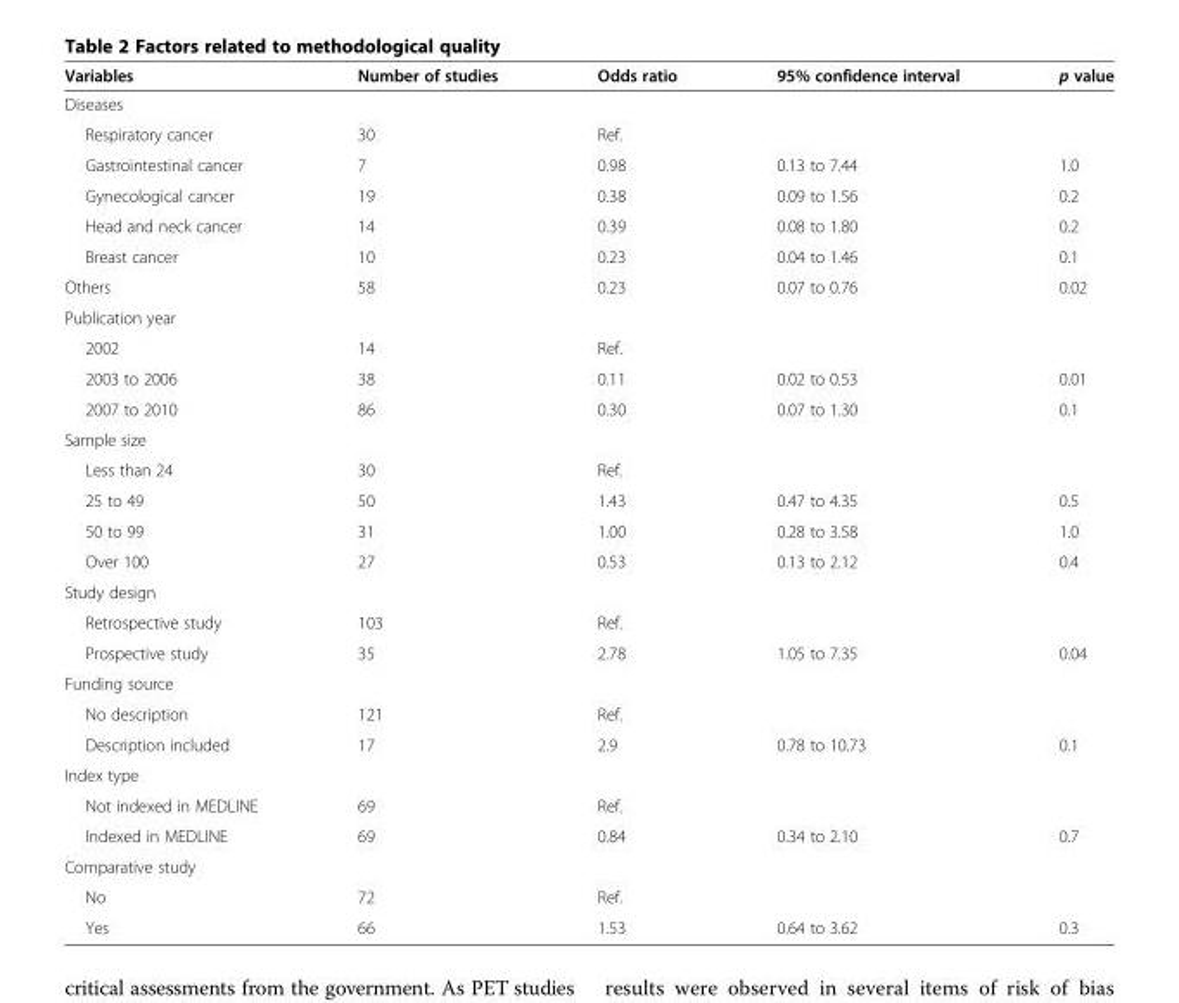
<table><thead><tr><td>Variables</td><td>Number of studies</td><td>Odds ratio</td><td>95% confidence interval</td><td>p value</td></tr></thead><tbody><tr><td colspan="5">Diseases</td></tr><tr><td>Respiratory cancer</td><td>30</td><td>Ref.</td><td></td><td></td></tr><tr><td>Gastrointestinal cancer</td><td>7</td><td>0.98</td><td>0.13 to 7.44</td><td>1.0</td></tr><tr><td>Gynecological cancer</td><td>19</td><td>0.38</td><td>0.09 to 1.56</td><td>0.2</td></tr><tr><td>Head and neck cancer</td><td>14</td><td>0.39</td><td>0.08 to 1.80</td><td>0.2</td></tr><tr><td>Breast cancer</td><td>10</td><td>0.23</td><td>0.04 to 1.46</td><td>0.1</td></tr><tr><td>Others</td><td>58</td><td>0.23</td><td>0.07 to 0.76</td><td>0.02</td></tr><tr><td colspan="5">Publication year</td></tr><tr><td>2002</td><td>14</td><td>Ref.</td><td></td><td></td></tr><tr><td>2003 to 2006</td><td>38</td><td>0.11</td><td>0.02 to 0.53</td><td>0.01</td></tr><tr><td>2007 to 2010</td><td>86</td><td>0.30</td><td>0.07 to 1.30</td><td>0.1</td></tr><tr><td colspan="5">Sample size</td></tr><tr><td>Less than 24</td><td>30</td><td>Ref.</td><td></td><td></td></tr><tr><td>25 to 49</td><td>50</td><td>1.43</td><td>0.47 to 4.35</td><td>0.5</td></tr><tr><td>50 to 99</td><td>31</td><td>1.00</td><td>0.28 to 3.58</td><td>1.0</td></tr><tr><td>Over 100</td><td>27</td><td>0.53</td><td>0.13 to 2.12</td><td>0.4</td></tr><tr><td colspan="5">Study design</td></tr><tr><td>Retrospective study</td><td>103</td><td>Ref.</td><td></td><td></td></tr><tr><td>Prospective study</td><td>35</td><td>2.78</td><td>1.05 to 7.35</td><td>0.04</td></tr><tr><td colspan="5">Funding source</td></tr><tr><td>No description</td><td>121</td><td>Ref.</td><td></td><td></td></tr><tr><td>Description included</td><td>17</td><td>2.9</td><td>0.78 to 10.73</td><td>0.1</td></tr><tr><td colspan="5">Index type</td></tr><tr><td>Not indexed in MEDLINE</td><td>69</td><td>Ref.</td><td></td><td></td></tr><tr><td>Indexed in MEDLINE</td><td>69</td><td>0.84</td><td>0.34 to 2.10</td><td>0.7</td></tr><tr><td colspan="5">Comparative study</td></tr><tr><td>No</td><td>72</td><td>Ref.</td><td></td><td></td></tr><tr><td>Yes</td><td>66</td><td>1.53</td><td>0.64 to 3.62</td><td>0.3</td></tr></tbody></table>